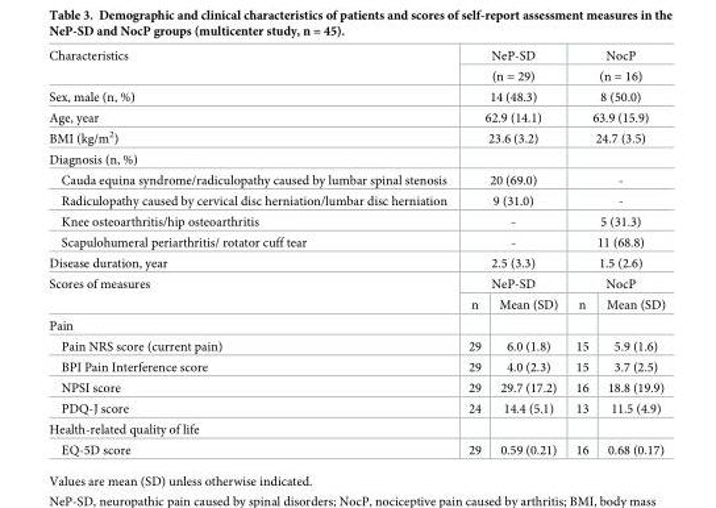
<table><tbody><tr><td rowspan="2">Characteristics</td><td colspan="2">NeP-SD</td><td colspan="2">NocP</td></tr><tr><td colspan="2">(n = 29)</td><td colspan="2">(n = 16)</td></tr><tr><td>Sex, male (n, %)</td><td colspan="2">14 (48.3)</td><td colspan="2">8 (50.0)</td></tr><tr><td>Age, year</td><td colspan="2">62.9 (14.1)</td><td colspan="2">63.9 (15.9)</td></tr><tr><td>BMI (kg/m<sup>2</sup>)</td><td colspan="2">23.6 (3.2)</td><td colspan="2">24.7 (3.5)</td></tr><tr><td colspan="5">Diagnosis (n, %)</td></tr><tr><td>Cauda equina syndrome/radiculopathy caused by lumbar spinal stenosis</td><td colspan="2">20 (69.0)</td><td colspan="2">-</td></tr><tr><td>Radiculopathy caused by cervical disc herniation/lumbar disc herniation</td><td colspan="2">9 (31.0)</td><td colspan="2">-</td></tr><tr><td>Knee osteoarthritis/hip osteoarthritis</td><td colspan="2">-</td><td colspan="2">5 (31.3)</td></tr><tr><td>Scapulohumeral periarthritis/ rotator cuff tear</td><td colspan="2">-</td><td colspan="2">11 (68.8)</td></tr><tr><td>Disease duration, year</td><td colspan="2">2.5 (3.3)</td><td colspan="2">1.5 (2.6)</td></tr><tr><td rowspan="2">Scores of measures</td><td colspan="2">NeP-SD</td><td colspan="2">NocP</td></tr><tr><td>n</td><td>Mean (SD)</td><td>n</td><td>Mean (SD)</td></tr><tr><td colspan="5">Pain</td></tr><tr><td>Pain NRS score (current pain)</td><td>29</td><td>6.0 (1.8)</td><td>15</td><td>5.9 (1.6)</td></tr><tr><td>BPI Pain Interference score</td><td>29</td><td>4.0 (2.3)</td><td>15</td><td>3.7 (2.5)</td></tr><tr><td>NPSI score</td><td>29</td><td>29.7 (17.2)</td><td>16</td><td>18.8 (19.9)</td></tr><tr><td>PDQ-J score</td><td>24</td><td>14.4 (5.1)</td><td>13</td><td>11.5 (4.9)</td></tr><tr><td colspan="5">Health-related quality of life</td></tr><tr><td>EQ-5D score</td><td>29</td><td>0.59 (0.21)</td><td>16</td><td>0.68 (0.17)</td></tr></tbody></table>